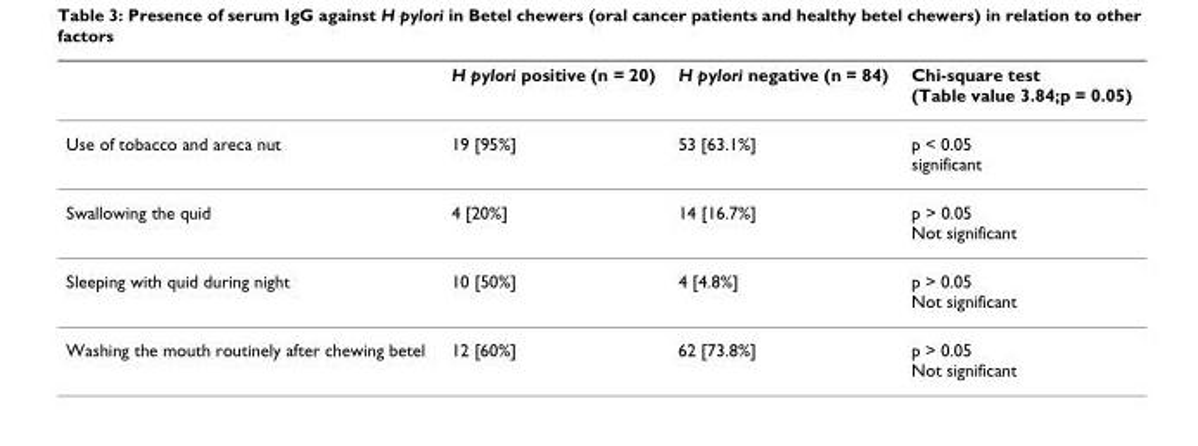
<table><thead><tr><td></td><td>H pylori positive (n = 20)</td><td>H pylori negative (n = 84)</td><td>Chi-square test (Table value 3.84;p = 0.05)</td></tr></thead><tbody><tr><td>Use of tobacco and areca nut</td><td>19 [95%]</td><td>53 [63.1%]</td><td>p &lt; 0.05 significant</td></tr><tr><td>Swallowing the quid</td><td>4 [20%]</td><td>14 [16.7%]</td><td>p &gt; 0.05 Not significant</td></tr><tr><td>Sleeping with quid during night</td><td>10 [50%]</td><td>4 [4.8%]</td><td>p &gt; 0.05 Not significant</td></tr><tr><td>Washing the mouth routinely after chewing betel</td><td>12 [60%]</td><td>62 [73.8%]</td><td>p &gt; 0.05 Not significant</td></tr></tbody></table>